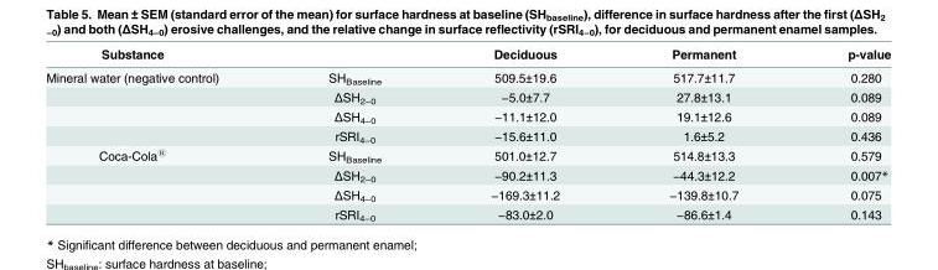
<table><thead><tr><td>Substance</td><td></td><td>Deciduous</td><td>Permanent</td><td>p-value</td></tr></thead><tbody><tr><td rowspan="4">Mineral water (negative control)</td><td>SH<sub>Baseline</sub></td><td>509.5±19.6</td><td>517.7±11.7</td><td>0.280</td></tr><tr><td>ΔSH<sub>2−0</sub></td><td>−5.0±7.7</td><td>27.8±13.1</td><td>0.089</td></tr><tr><td>ΔSH<sub>4−0</sub></td><td>−11.1±12.0</td><td>19.1±12.6</td><td>0.089</td></tr><tr><td>rSRI<sub>4−0</sub></td><td>−15.6±11.0</td><td>1.6±5.2</td><td>0.436</td></tr><tr><td rowspan="4">Coca-Cola<sup>®</sup></td><td>SH<sub>Baseline</sub></td><td>501.0±12.7</td><td>514.8±13.3</td><td>0.579</td></tr><tr><td>ΔSH<sub>2−0</sub></td><td>−90.2±11.3</td><td>−44.3±12.2</td><td>0.007*</td></tr><tr><td>ΔSH<sub>4−0</sub></td><td>−169.3±11.2</td><td>−139.8±10.7</td><td>0.075</td></tr><tr><td>rSRI<sub>4−0</sub></td><td>−83.0±2.0</td><td>−86.6±1.4</td><td>0.143</td></tr></tbody></table>